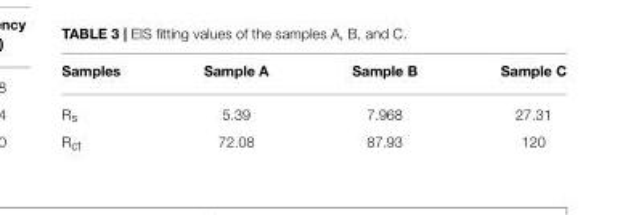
<table><thead><tr><td>Samples</td><td>Sample A</td><td>Sample B</td><td>Sample C</td></tr></thead><tbody><tr><td>R<sub>s</sub></td><td>5.39</td><td>7.968</td><td>27.31</td></tr><tr><td>R<sub>ct</sub></td><td>72.08</td><td>87.93</td><td>120</td></tr></tbody></table>